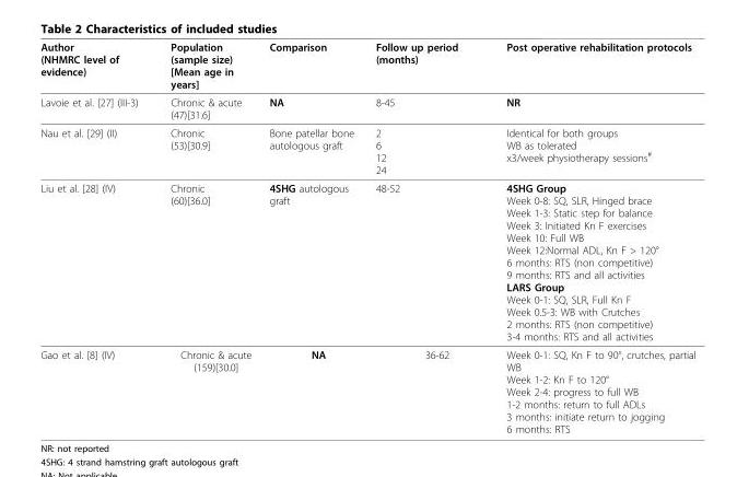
<table><thead><tr><td>Author (NHMRC level of evidence)</td><td>Population (sample size) [Mean age in years]</td><td>Comparison</td><td>Follow up period (months)</td><td>Post operative rehabilitation protocols</td></tr></thead><tbody><tr><td>Lavoie et al. [27] (III-3)</td><td>Chronic &amp; acute (47)[31.6]</td><td>NA</td><td>8-45</td><td>NR</td></tr><tr><td>Nau et al. [29] (II)</td><td>Chronic (53)[30.9]</td><td>Bone patellar bone autologous graft</td><td>2 6 12 24</td><td>Identical for both groups WB as tolerated x3/week physiotherapy sessions<sup>#</sup></td></tr><tr><td>Liu et al. [28] (IV)</td><td>Chronic (60)[36.0]</td><td>4SHG autologous graft</td><td>48-52</td><td>4SHG Group Week 0-8: SQ, SLR, Hinged brace Week 1-3: Static step for balance Week 3: Initiated Kn F exercises Week 10: Full WB Week 12:Normal ADL, Kn F &gt; 120° 6 months: RTS (non competitive) 9 months: RTS and all activities LARS Group Week 0-1: SQ, SLR, Full Kn F Week 0.5-3: WB with Crutches 2 months: RTS (non competitive) 3-4 months: RTS and all activities</td></tr><tr><td>Gao et al. [8] (IV)</td><td>Chronic &amp; acute (159)[30.0]</td><td>NA</td><td>36-62</td><td>Week 0-1: SQ, Kn F to 90°, crutches, partial WB Week 1-2: Kn F to 120° Week 2-4: progress to full WB 1-2 months: return to full ADLs 3 months: initiate return to jogging 6 months: RTS</td></tr></tbody></table>